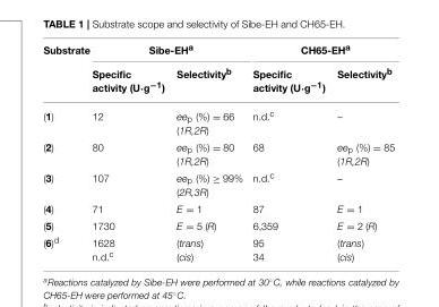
<table><thead><tr><td rowspan="2">Substrate</td><td colspan="2">Sibe-EH<sup>a</sup></td><td colspan="2">CH65-EH<sup>a</sup></td></tr><tr><td>Specific activity (U·g<sup>−1</sup>)</td><td>Selectivity<sup>b</sup></td><td>Specific activity (U·g<sup>−1</sup>)</td><td>Selectivity<sup>b</sup></td></tr></thead><tbody><tr><td>(1)</td><td>12</td><td>ee<sub>p</sub> (%) = 66 (1R,2R)</td><td>n.d.<sup>c</sup></td><td>–</td></tr><tr><td>(2)</td><td>80</td><td>ee<sub>p</sub> (%) = 80 (1R,2R)</td><td>68</td><td>ee<sub>p</sub> (%) = 85 (1R,2R)</td></tr><tr><td>(3)</td><td>107</td><td>ee<sub>p</sub> (%) ≥ 99% (2R,3R)</td><td>n.d.<sup>c</sup></td><td>–</td></tr><tr><td>(4)</td><td>71</td><td>E = 1</td><td>87</td><td>E = 1</td></tr><tr><td>(5)</td><td>1730</td><td>E = 5 (R)</td><td>6,359</td><td>E = 2 (R)</td></tr><tr><td>(6)<sup>d</sup></td><td>1628 n.d.<sup>c</sup></td><td>(trans) (cis)</td><td>95 34</td><td>(trans) (cis)</td></tr></tbody></table>